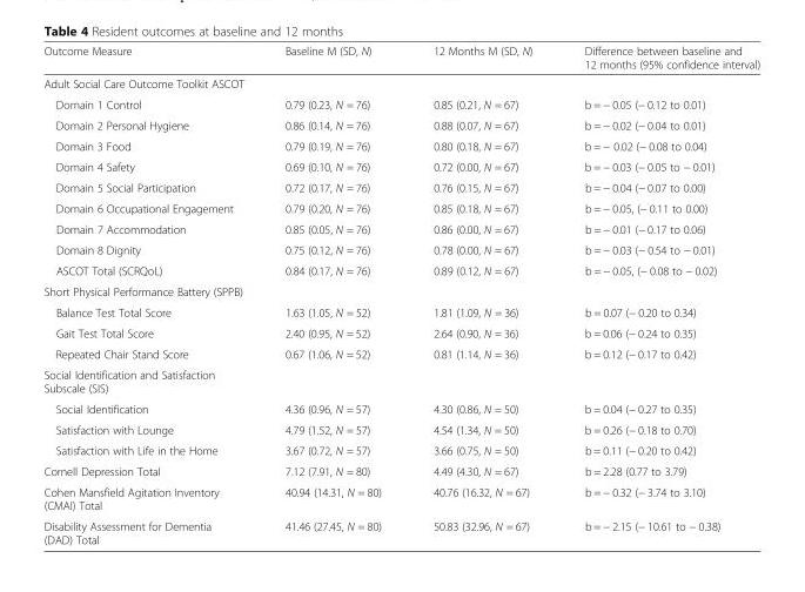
<table><thead><tr><td>Outcome Measure</td><td>Baseline M (SD, N)</td><td>12 Months M (SD, N)</td><td>Difference between baseline and 12 months (95% confidence interval)</td></tr></thead><tbody><tr><td colspan="4">Adult Social Care Outcome Toolkit ASCOT</td></tr><tr><td>Domain 1 Control</td><td>0.79 (0.23, N = 76)</td><td>0.85 (0.21, N = 67)</td><td>b = − 0.05 (− 0.12 to 0.01)</td></tr><tr><td>Domain 2 Personal Hygiene</td><td>0.86 (0.14, N = 76)</td><td>0.88 (0.07, N = 67)</td><td>b = − 0.02 (− 0.04 to 0.01)</td></tr><tr><td>Domain 3 Food</td><td>0.79 (0.19, N = 76)</td><td>0.80 (0.18, N = 67)</td><td>b = − 0.02 (− 0.08 to 0.04)</td></tr><tr><td>Domain 4 Safety</td><td>0.69 (0.10, N = 76)</td><td>0.72 (0.00, N = 67)</td><td>b = − 0.03 (− 0.05 to − 0.01)</td></tr><tr><td>Domain 5 Social Participation</td><td>0.72 (0.17, N = 76)</td><td>0.76 (0.15, N = 67)</td><td>b = − 0.04 (− 0.07 to 0.00)</td></tr><tr><td>Domain 6 Occupational Engagement</td><td>0.79 (0.20, N = 76)</td><td>0.85 (0.18, N = 67)</td><td>b = − 0.05, (− 0.11 to 0.00)</td></tr><tr><td>Domain 7 Accommodation</td><td>0.85 (0.05, N = 76)</td><td>0.86 (0.00, N = 67)</td><td>b = − 0.01 (− 0.17 to 0.06)</td></tr><tr><td>Domain 8 Dignity</td><td>0.75 (0.12, N = 76)</td><td>0.78 (0.00, N = 67)</td><td>b = − 0.03 (− 0.54 to − 0.01)</td></tr><tr><td>ASCOT Total (SCRQoL)</td><td>0.84 (0.17, N = 76)</td><td>0.89 (0.12, N = 67)</td><td>b = − 0.05, (− 0.08 to − 0.02)</td></tr><tr><td colspan="4">Short Physical Performance Battery (SPPB)</td></tr><tr><td>Balance Test Total Score</td><td>1.63 (1.05, N = 52)</td><td>1.81 (1.09, N = 36)</td><td>b = 0.07 (− 0.20 to 0.34)</td></tr><tr><td>Gait Test Total Score</td><td>2.40 (0.95, N = 52)</td><td>2.64 (0.90, N = 36)</td><td>b = 0.06 (− 0.24 to 0.35)</td></tr><tr><td>Repeated Chair Stand Score</td><td>0.67 (1.06, N = 52)</td><td>0.81 (1.14, N = 36)</td><td>b = 0.12 (− 0.17 to 0.42)</td></tr><tr><td colspan="4">Social Identification and Satisfaction Subscale (SIS)</td></tr><tr><td>Social Identification</td><td>4.36 (0.96, N = 57)</td><td>4.30 (0.86, N = 50)</td><td>b = 0.04 (− 0.27 to 0.35)</td></tr><tr><td>Satisfaction with Lounge</td><td>4.79 (1.52, N = 57)</td><td>4.54 (1.34, N = 50)</td><td>b = 0.26 (− 0.18 to 0.70)</td></tr><tr><td>Satisfaction with Life in the Home</td><td>3.67 (0.72, N = 57)</td><td>3.66 (0.75, N = 50)</td><td>b = 0.11 (− 0.20 to 0.42)</td></tr><tr><td>Cornell Depression Total</td><td>7.12 (7.91, N = 80)</td><td>4.49 (4.30, N = 67)</td><td>b = 2.28 (0.77 to 3.79)</td></tr><tr><td>Cohen Mansfield Agitation Inventory (CMAI) Total</td><td>40.94 (14.31, N = 80)</td><td>40.76 (16.32, N = 67)</td><td>b = − 0.32 (− 3.74 to 3.10)</td></tr><tr><td>Disability Assessment for Dementia (DAD) Total</td><td>41.46 (27.45, N = 80)</td><td>50.83 (32.96, N = 67)</td><td>b = − 2.15 (− 10.61 to − 0.38)</td></tr></tbody></table>